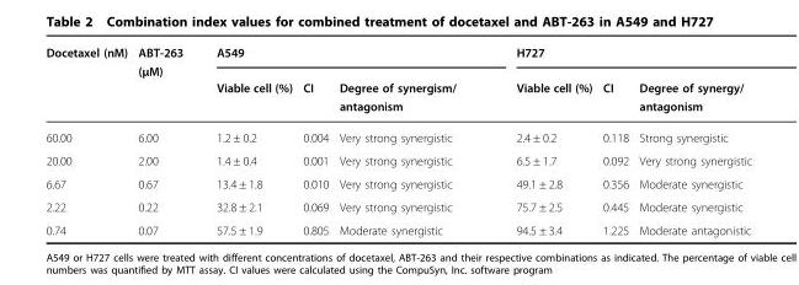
<table><thead><tr><td rowspan="2">Docetaxel (nM)</td><td rowspan="2">ABT-263 (µM)</td><td colspan="3">A549</td><td colspan="3">H727</td></tr><tr><td>Viable cell (%)</td><td>CI</td><td>Degree of synergism/ antagonism</td><td>Viable cell (%)</td><td>CI</td><td>Degree of synergy/ antagonism</td></tr></thead><tbody><tr><td>60.00</td><td>6.00</td><td>1.2 ± 0.2</td><td>0.004</td><td>Very strong synergistic</td><td>2.4 ± 0.2</td><td>0.118</td><td>Strong synergistic</td></tr><tr><td>20.00</td><td>2.00</td><td>1.4 ± 0.4</td><td>0.001</td><td>Very strong synergistic</td><td>6.5 ± 1.7</td><td>0.092</td><td>Very strong synergistic</td></tr><tr><td>6.67</td><td>0.67</td><td>13.4 ± 1.8</td><td>0.010</td><td>Very strong synergistic</td><td>49.1 ± 2.8</td><td>0.356</td><td>Moderate synergistic</td></tr><tr><td>2.22</td><td>0.22</td><td>32.8 ± 2.1</td><td>0.069</td><td>Very strong synergistic</td><td>75.7 ± 2.5</td><td>0.445</td><td>Moderate synergistic</td></tr><tr><td>0.74</td><td>0.07</td><td>57.5 ± 1.9</td><td>0.805</td><td>Moderate synergistic</td><td>94.5 ± 3.4</td><td>1.225</td><td>Moderate antagonistic</td></tr></tbody></table>